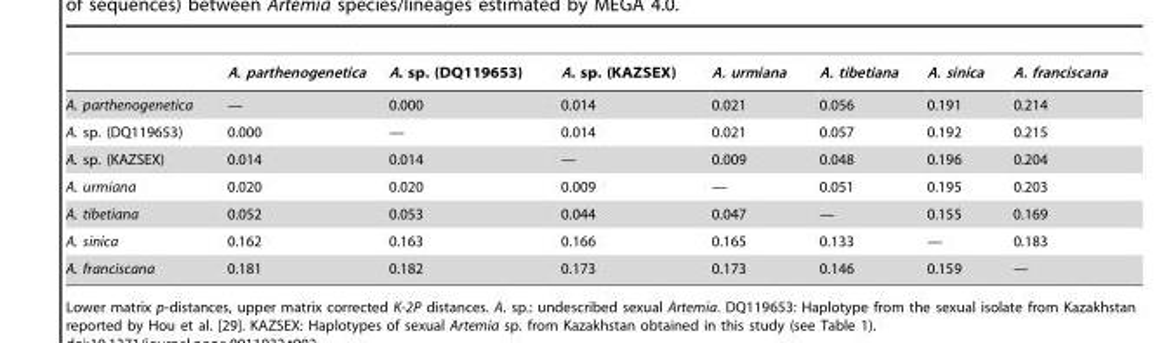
<table><thead><tr><td></td><td>A. parthenogenetica</td><td>A. sp. (DQ119653)</td><td>A. sp. (KAZSEX)</td><td>A. urmiana</td><td>A. tibetiana</td><td>A. sinica</td><td>A. franciscana</td></tr></thead><tbody><tr><td>A. parthenogenetica</td><td>—</td><td>0.000</td><td>0.014</td><td>0.021</td><td>0.056</td><td>0.191</td><td>0.214</td></tr><tr><td>A. sp. (DQ119653)</td><td>0.000</td><td>—</td><td>0.014</td><td>0.021</td><td>0.057</td><td>0.192</td><td>0.215</td></tr><tr><td>A. sp. (KAZSEX)</td><td>0.014</td><td>0.014</td><td>—</td><td>0.009</td><td>0.048</td><td>0.196</td><td>0.204</td></tr><tr><td>A. urmiana</td><td>0.020</td><td>0.020</td><td>0.009</td><td>—</td><td>0.051</td><td>0.195</td><td>0.203</td></tr><tr><td>A. tibetiana</td><td>0.052</td><td>0.053</td><td>0.044</td><td>0.047</td><td>—</td><td>0.155</td><td>0.169</td></tr><tr><td>A. sinica</td><td>0.162</td><td>0.163</td><td>0.166</td><td>0.165</td><td>0.133</td><td>—</td><td>0.183</td></tr><tr><td>A. franciscana</td><td>0.181</td><td>0.182</td><td>0.173</td><td>0.173</td><td>0.146</td><td>0.159</td><td>—</td></tr></tbody></table>